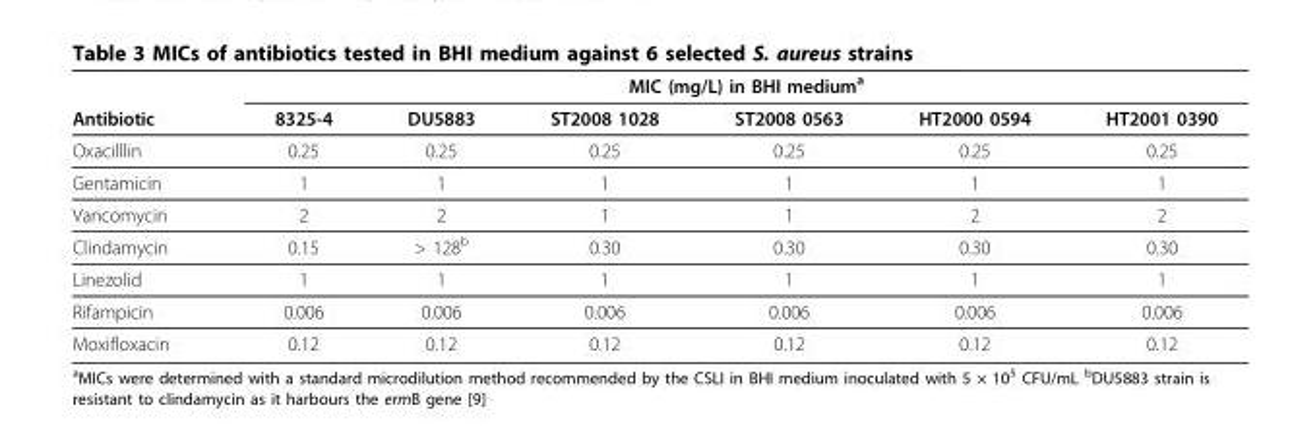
<table><thead><tr><td rowspan="2">Antibiotic</td><td colspan="6">MIC (mg/L) in BHI medium<sup>a</sup></td></tr><tr><td>8325-4</td><td>DU5883</td><td>ST2008 1028</td><td>ST2008 0563</td><td>HT2000 0594</td><td>HT2001 0390</td></tr></thead><tbody><tr><td>Oxacilllin</td><td>0.25</td><td>0.25</td><td>0.25</td><td>0.25</td><td>0.25</td><td>0.25</td></tr><tr><td>Gentamicin</td><td>1</td><td>1</td><td>1</td><td>1</td><td>1</td><td>1</td></tr><tr><td>Vancomycin</td><td>2</td><td>2</td><td>1</td><td>1</td><td>2</td><td>2</td></tr><tr><td>Clindamycin</td><td>0.15</td><td>&gt; 128<sup>b</sup></td><td>0.30</td><td>0.30</td><td>0.30</td><td>0.30</td></tr><tr><td>Linezolid</td><td>1</td><td>1</td><td>1</td><td>1</td><td>1</td><td>1</td></tr><tr><td>Rifampicin</td><td>0.006</td><td>0.006</td><td>0.006</td><td>0.006</td><td>0.006</td><td>0.006</td></tr><tr><td>Moxifloxacin</td><td>0.12</td><td>0.12</td><td>0.12</td><td>0.12</td><td>0.12</td><td>0.12</td></tr></tbody></table>